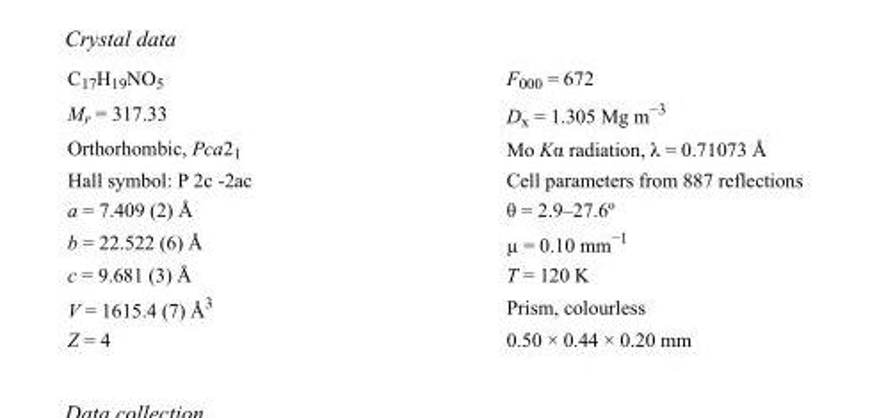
<table><tbody><tr><td>C<sub>17</sub>H<sub>19</sub>NO<sub>5</sub></td><td>F000 = 672</td></tr><tr><td>M<sub>r</sub> = 317.33</td><td>D<sub>x</sub> = 1.305 Mg m<sup>−3</sup></td></tr><tr><td>Orthorhombic, Pca2<sub>1</sub></td><td>Mo Kα radiation, λ = 0.71073 Å</td></tr><tr><td>Hall symbol: P 2c -2ac</td><td>Cell parameters from 887 reflections</td></tr><tr><td>a = 7.409 (2) Å</td><td>θ = 2.9–27.6º</td></tr><tr><td>b = 22.522 (6) Å</td><td>µ = 0.10 mm<sup>−1</sup></td></tr><tr><td>c = 9.681 (3) Å</td><td>T = 120 K</td></tr><tr><td>V = 1615.4 (7) Å<sup>3</sup></td><td>Prism, colourless</td></tr><tr><td>Z = 4</td><td>0.50 × 0.44 × 0.20 mm</td></tr></tbody></table>